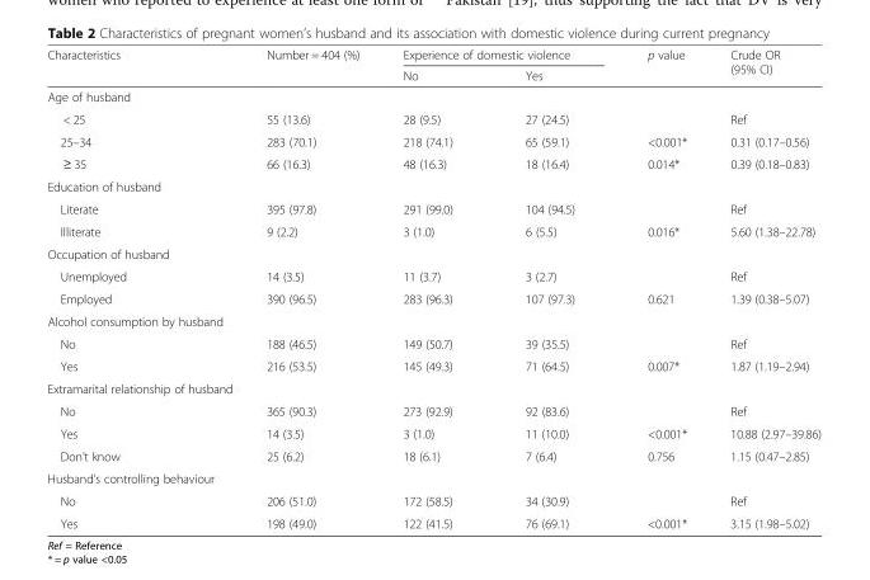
<table><thead><tr><td rowspan="2">Characteristics</td><td rowspan="2">Number = 404 (%)</td><td colspan="2">Experience of domestic violence</td><td rowspan="2">p value</td><td rowspan="2">Crude OR (95% CI)</td></tr><tr><td>No</td><td>Yes</td></tr></thead><tbody><tr><td colspan="6">Age of husband</td></tr><tr><td>&lt; 25</td><td>55 (13.6)</td><td>28 (9.5)</td><td>27 (24.5)</td><td></td><td>Ref</td></tr><tr><td>25–34</td><td>283 (70.1)</td><td>218 (74.1)</td><td>65 (59.1)</td><td>&lt;0.001*</td><td>0.31 (0.17–0.56)</td></tr><tr><td>≥ 35</td><td>66 (16.3)</td><td>48 (16.3)</td><td>18 (16.4)</td><td>0.014*</td><td>0.39 (0.18–0.83)</td></tr><tr><td colspan="6">Education of husband</td></tr><tr><td>Literate</td><td>395 (97.8)</td><td>291 (99.0)</td><td>104 (94.5)</td><td></td><td>Ref</td></tr><tr><td>Illiterate</td><td>9 (2.2)</td><td>3 (1.0)</td><td>6 (5.5)</td><td>0.016*</td><td>5.60 (1.38–22.78)</td></tr><tr><td colspan="6">Occupation of husband</td></tr><tr><td>Unemployed</td><td>14 (3.5)</td><td>11 (3.7)</td><td>3 (2.7)</td><td></td><td>Ref</td></tr><tr><td>Employed</td><td>390 (96.5)</td><td>283 (96.3)</td><td>107 (97.3)</td><td>0.621</td><td>1.39 (0.38–5.07)</td></tr><tr><td colspan="6">Alcohol consumption by husband</td></tr><tr><td>No</td><td>188 (46.5)</td><td>149 (50.7)</td><td>39 (35.5)</td><td></td><td>Ref</td></tr><tr><td>Yes</td><td>216 (53.5)</td><td>145 (49.3)</td><td>71 (64.5)</td><td>0.007*</td><td>1.87 (1.19–2.94)</td></tr><tr><td colspan="6">Extramarital relationship of husband</td></tr><tr><td>No</td><td>365 (90.3)</td><td>273 (92.9)</td><td>92 (83.6)</td><td></td><td>Ref</td></tr><tr><td>Yes</td><td>14 (3.5)</td><td>3 (1.0)</td><td>11 (10.0)</td><td>&lt;0.001*</td><td>10.88 (2.97–39.86)</td></tr><tr><td>Don’t know</td><td>25 (6.2)</td><td>18 (6.1)</td><td>7 (6.4)</td><td>0.756</td><td>1.15 (0.47–2.85)</td></tr><tr><td colspan="6">Husband’s controlling behaviour</td></tr><tr><td>No</td><td>206 (51.0)</td><td>172 (58.5)</td><td>34 (30.9)</td><td></td><td>Ref</td></tr><tr><td>Yes</td><td>198 (49.0)</td><td>122 (41.5)</td><td>76 (69.1)</td><td>&lt;0.001*</td><td>3.15 (1.98–5.02)</td></tr></tbody></table>